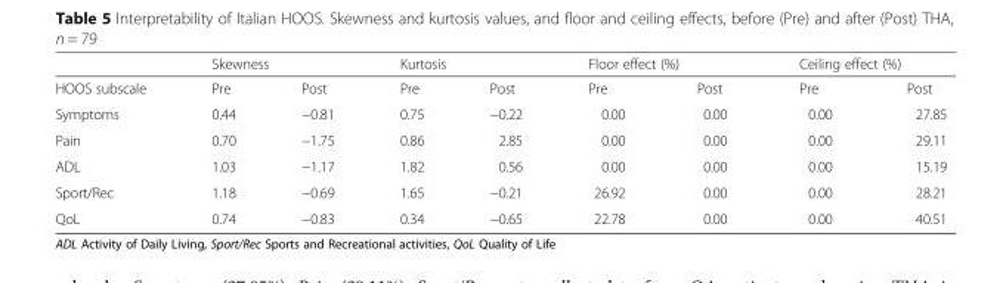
<table><thead><tr><td rowspan="2">HOOS subscale</td><td colspan="2">Skewness</td><td colspan="2">Kurtosis</td><td colspan="2">Floor effect (%)</td><td colspan="2">Ceiling effect (%)</td></tr><tr><td>Pre</td><td>Post</td><td>Pre</td><td>Post</td><td>Pre</td><td>Post</td><td>Pre</td><td>Post</td></tr></thead><tbody><tr><td>Symptoms</td><td>0.44</td><td>−0.81</td><td>0.75</td><td>−0.22</td><td>0.00</td><td>0.00</td><td>0.00</td><td>27.85</td></tr><tr><td>Pain</td><td>0.70</td><td>−1.75</td><td>0.86</td><td>2.85</td><td>0.00</td><td>0.00</td><td>0.00</td><td>29.11</td></tr><tr><td>ADL</td><td>1.03</td><td>−1.17</td><td>1.82</td><td>0.56</td><td>0.00</td><td>0.00</td><td>0.00</td><td>15.19</td></tr><tr><td>Sport/Rec</td><td>1.18</td><td>−0.69</td><td>1.65</td><td>−0.21</td><td>26.92</td><td>0.00</td><td>0.00</td><td>28.21</td></tr><tr><td>QoL</td><td>0.74</td><td>−0.83</td><td>0.34</td><td>−0.65</td><td>22.78</td><td>0.00</td><td>0.00</td><td>40.51</td></tr></tbody></table>